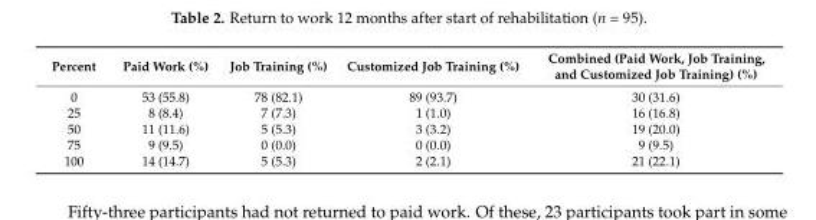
<table><thead><tr><td>Percent</td><td>Paid Work (%)</td><td>Job Training (%)</td><td>Customized Job Training (%)</td><td>Combined (Paid Work, Job Training, and Customized Job Training) (%)</td></tr></thead><tbody><tr><td>0</td><td>53 (55.8)</td><td>78 (82.1)</td><td>89 (93.7)</td><td>30 (31.6)</td></tr><tr><td>25</td><td>8 (8.4)</td><td>7 (7.3)</td><td>1 (1.0)</td><td>16 (16.8)</td></tr><tr><td>50</td><td>11 (11.6)</td><td>5 (5.3)</td><td>3 (3.2)</td><td>19 (20.0)</td></tr><tr><td>75</td><td>9 (9.5)</td><td>0 (0.0)</td><td>0 (0.0)</td><td>9 (9.5)</td></tr><tr><td>100</td><td>14 (14.7)</td><td>5 (5.3)</td><td>2 (2.1)</td><td>21 (22.1)</td></tr></tbody></table>